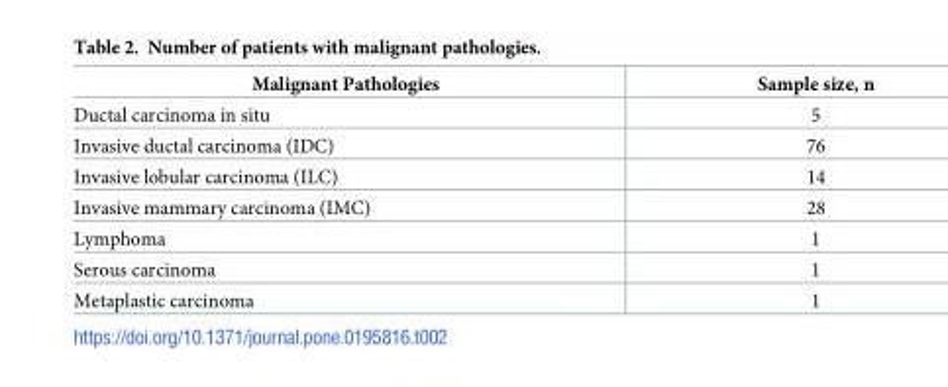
<table><thead><tr><td>Malignant Pathologies</td><td>Sample size, n</td></tr></thead><tbody><tr><td>Ductal carcinoma in situ</td><td>5</td></tr><tr><td>Invasive ductal carcinoma (IDC)</td><td>76</td></tr><tr><td>Invasive lobular carcinoma (ILC)</td><td>14</td></tr><tr><td>Invasive mammary carcinoma (IMC)</td><td>28</td></tr><tr><td>Lymphoma</td><td>1</td></tr><tr><td>Serous carcinoma</td><td>1</td></tr><tr><td>Metaplastic carcinoma</td><td>1</td></tr></tbody></table>